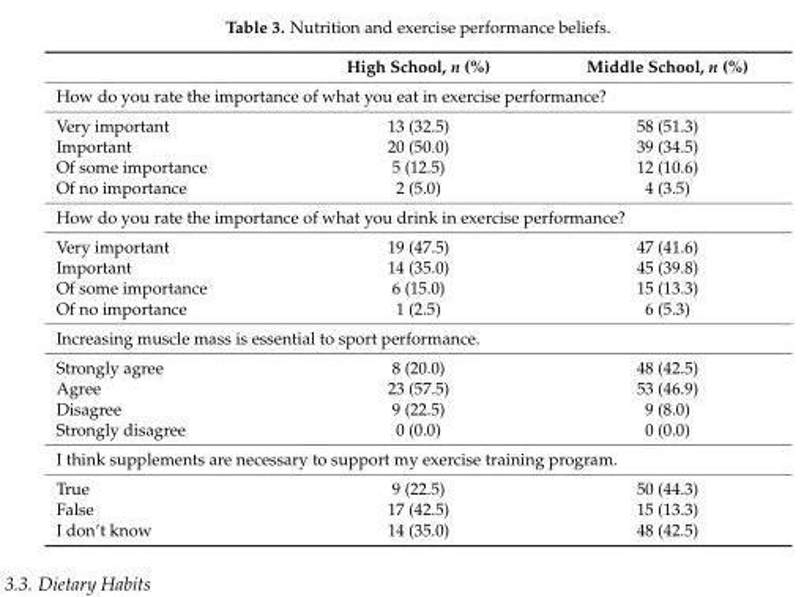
<table><thead><tr><td></td><td>High School, n (%)</td><td>Middle School, n (%)</td></tr></thead><tbody><tr><td colspan="3">How do you rate the importance of what you eat in exercise performance?</td></tr><tr><td>Very important</td><td>13 (32.5)</td><td>58 (51.3)</td></tr><tr><td>Important</td><td>20 (50.0)</td><td>39 (34.5)</td></tr><tr><td>Of some importance</td><td>5 (12.5)</td><td>12 (10.6)</td></tr><tr><td>Of no importance</td><td>2 (5.0)</td><td>4 (3.5)</td></tr><tr><td colspan="3">How do you rate the importance of what you drink in exercise performance?</td></tr><tr><td>Very important</td><td>19 (47.5)</td><td>47 (41.6)</td></tr><tr><td>Important</td><td>14 (35.0)</td><td>45 (39.8)</td></tr><tr><td>Of some importance</td><td>6 (15.0)</td><td>15 (13.3)</td></tr><tr><td>Of no importance</td><td>1 (2.5)</td><td>6 (5.3)</td></tr><tr><td colspan="3">Increasing muscle mass is essential to sport performance.</td></tr><tr><td>Strongly agree</td><td>8 (20.0)</td><td>48 (42.5)</td></tr><tr><td>Agree</td><td>23 (57.5)</td><td>53 (46.9)</td></tr><tr><td>Disagree</td><td>9 (22.5)</td><td>9 (8.0)</td></tr><tr><td>Strongly disagree</td><td>0 (0.0)</td><td>0 (0.0)</td></tr><tr><td colspan="3">I think supplements are necessary to support my exercise training program.</td></tr><tr><td>True</td><td>9 (22.5)</td><td>50 (44.3)</td></tr><tr><td>False</td><td>17 (42.5)</td><td>15 (13.3)</td></tr><tr><td>I don’t know</td><td>14 (35.0)</td><td>48 (42.5)</td></tr></tbody></table>